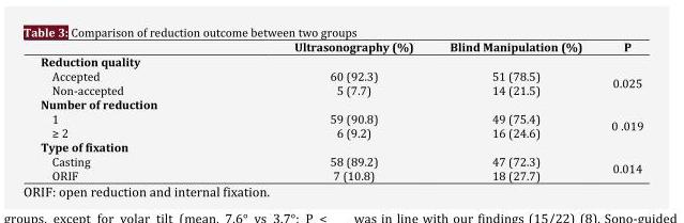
<table><thead><tr><td></td><td>Ultrasonography (%)</td><td>Blind Manipulation (%)</td><td>P</td></tr></thead><tbody><tr><td colspan="4">Reduction quality</td></tr><tr><td>Accepted</td><td>60 (92.3)</td><td>51 (78.5)</td><td rowspan="2">0.025</td></tr><tr><td>Non-accepted</td><td>5 (7.7)</td><td>14 (21.5)</td></tr><tr><td colspan="4">Number of reduction</td></tr><tr><td>1</td><td>59 (90.8)</td><td>49 (75.4)</td><td rowspan="2">0 .019</td></tr><tr><td>≥ 2</td><td>6 (9.2)</td><td>16 (24.6)</td></tr><tr><td colspan="4">Type of fixation</td></tr><tr><td>Casting</td><td>58 (89.2)</td><td>47 (72.3)</td><td rowspan="2">0.014</td></tr><tr><td>ORIF</td><td>7 (10.8)</td><td>18 (27.7)</td></tr></tbody></table>